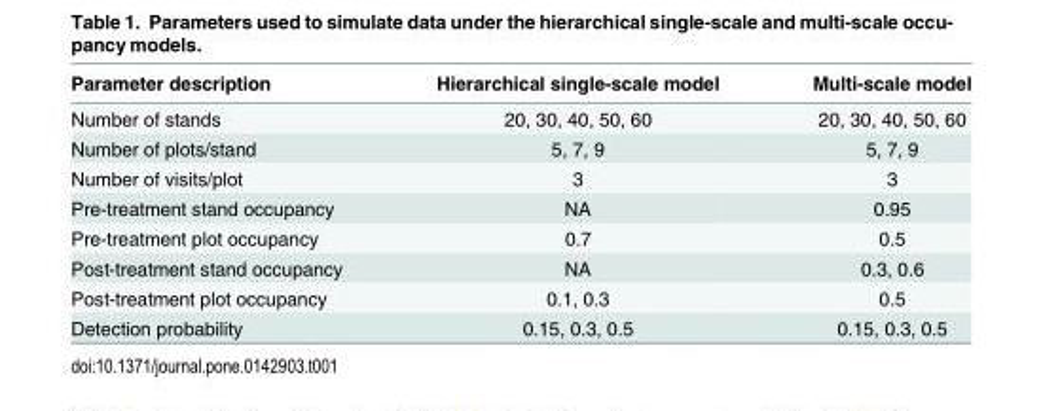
<table><thead><tr><td>Parameter description</td><td>Hierarchical single-scale model</td><td>Multi-scale model</td></tr></thead><tbody><tr><td>Number of stands</td><td>20, 30, 40, 50, 60</td><td>20, 30, 40, 50, 60</td></tr><tr><td>Number of plots/stand</td><td>5, 7, 9</td><td>5, 7, 9</td></tr><tr><td>Number of visits/plot</td><td>3</td><td>3</td></tr><tr><td>Pre-treatment stand occupancy</td><td>NA</td><td>0.95</td></tr><tr><td>Pre-treatment plot occupancy</td><td>0.7</td><td>0.5</td></tr><tr><td>Post-treatment stand occupancy</td><td>NA</td><td>0.3, 0.6</td></tr><tr><td>Post-treatment plot occupancy</td><td>0.1, 0.3</td><td>0.5</td></tr><tr><td>Detection probability</td><td>0.15, 0.3, 0.5</td><td>0.15, 0.3, 0.5</td></tr></tbody></table>